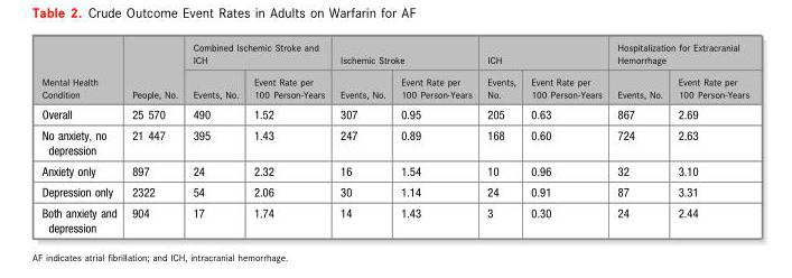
<table><thead><tr><td rowspan="2">Mental Health Condition</td><td rowspan="2">People, No.</td><td colspan="2">Combined Ischemic Stroke and ICH</td><td colspan="2">Ischemic Stroke</td><td colspan="2">ICH</td><td colspan="2">Hospitalization for Extracranial Hemorrhage</td></tr><tr><td>Events, No.</td><td>Event Rate per 100 Person-Years</td><td>Events, No.</td><td>Event Rate per 100 Person-Years</td><td>Events, No.</td><td>Event Rate per 100 Person-Years</td><td>Events, No.</td><td>Event Rate per 100 Person-Years</td></tr></thead><tbody><tr><td>Overall</td><td>25 570</td><td>490</td><td>1.52</td><td>307</td><td>0.95</td><td>205</td><td>0.63</td><td>867</td><td>2.69</td></tr><tr><td>No anxiety, no depression</td><td>21 447</td><td>395</td><td>1.43</td><td>247</td><td>0.89</td><td>168</td><td>0.60</td><td>724</td><td>2.63</td></tr><tr><td>Anxiety only</td><td>897</td><td>24</td><td>2.32</td><td>16</td><td>1.54</td><td>10</td><td>0.96</td><td>32</td><td>3.10</td></tr><tr><td>Depression only</td><td>2322</td><td>54</td><td>2.06</td><td>30</td><td>1.14</td><td>24</td><td>0.91</td><td>87</td><td>3.31</td></tr><tr><td>Both anxiety and depression</td><td>904</td><td>17</td><td>1.74</td><td>14</td><td>1.43</td><td>3</td><td>0.30</td><td>24</td><td>2.44</td></tr></tbody></table>